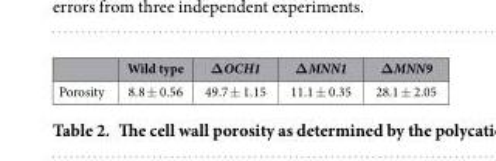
<table><thead><tr><td></td><td>Wild type</td><td>ΔOCH1</td><td>ΔMNN1</td><td>ΔMNN9</td></tr></thead><tbody><tr><td>Porosity</td><td>8.8 ± 0.56</td><td>49.7 ± 1.15</td><td>11.1 ± 0.35</td><td>28.1 ± 2.05</td></tr></tbody></table>